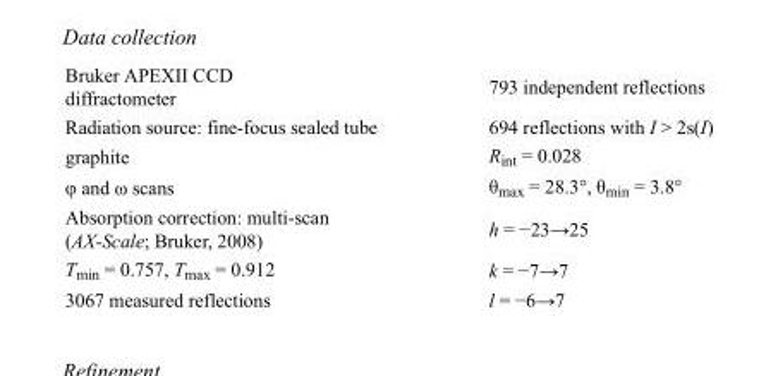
<table><tbody><tr><td>Bruker APEXII CCD diffractometer</td><td>793 independent reflections</td></tr><tr><td>Radiation source: fine-focus sealed tube</td><td>694 reflections with I &gt; 2s(I)</td></tr><tr><td>graphite</td><td>R<sub>int</sub> = 0.028</td></tr><tr><td>φ and ω scans</td><td>θ<sub>max</sub> = 28.3°, θ<sub>min</sub> = 3.8°</td></tr><tr><td>Absorption correction: multi-scan (AX-Scale; Bruker, 2008)</td><td>h = −23→25</td></tr><tr><td>T<sub>min</sub> = 0.757, T<sub>max</sub> = 0.912</td><td>k = −7→7</td></tr><tr><td>3067 measured reflections</td><td>l = −6→7</td></tr></tbody></table>